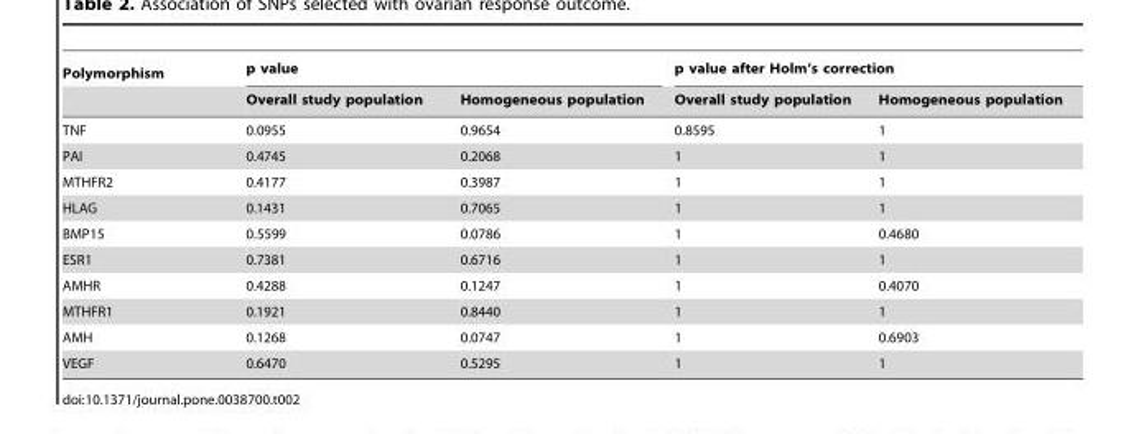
<table><thead><tr><td rowspan="2">Polymorphism</td><td colspan="2">p value</td><td colspan="2">p value after Holm’s correction</td></tr><tr><td>Overall study population</td><td>Homogeneous population</td><td>Overall study population</td><td>Homogeneous population</td></tr></thead><tbody><tr><td>TNF</td><td>0.0955</td><td>0.9654</td><td>0.8595</td><td>1</td></tr><tr><td>PAI</td><td>0.4745</td><td>0.2068</td><td>1</td><td>1</td></tr><tr><td>MTHFR2</td><td>0.4177</td><td>0.3987</td><td>1</td><td>1</td></tr><tr><td>HLAG</td><td>0.1431</td><td>0.7065</td><td>1</td><td>1</td></tr><tr><td>BMP15</td><td>0.5599</td><td>0.0786</td><td>1</td><td>0.4680</td></tr><tr><td>ESR1</td><td>0.7381</td><td>0.6716</td><td>1</td><td>1</td></tr><tr><td>AMHR</td><td>0.4288</td><td>0.1247</td><td>1</td><td>0.4070</td></tr><tr><td>MTHFR1</td><td>0.1921</td><td>0.8440</td><td>1</td><td>1</td></tr><tr><td>AMH</td><td>0.1268</td><td>0.0747</td><td>1</td><td>0.6903</td></tr><tr><td>VEGF</td><td>0.6470</td><td>0.5295</td><td>1</td><td>1</td></tr></tbody></table>